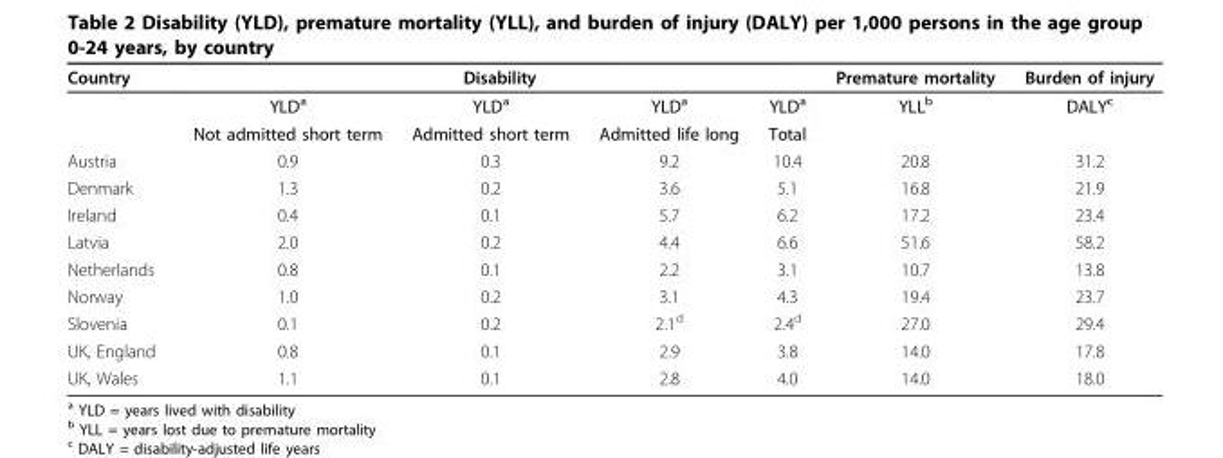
<table><thead><tr><td rowspan="3">Country</td><td colspan="4">Disability</td><td rowspan="3">Premature mortality YLL<sup>b</sup></td><td rowspan="3">Burden of injury DALY<sup>c</sup></td></tr><tr><td rowspan="2">YLD<sup>a</sup> Not admitted short term</td><td rowspan="2">YLD<sup>a</sup> Admitted short term</td><td rowspan="2">YLD<sup>a</sup> Admitted life long</td><td rowspan="2">YLD<sup>a</sup> Total</td></tr><tr></tr></thead><tbody><tr><td>Austria</td><td>0.9</td><td>0.3</td><td>9.2</td><td>10.4</td><td>20.8</td><td>31.2</td></tr><tr><td>Denmark</td><td>1.3</td><td>0.2</td><td>3.6</td><td>5.1</td><td>16.8</td><td>21.9</td></tr><tr><td>Ireland</td><td>0.4</td><td>0.1</td><td>5.7</td><td>6.2</td><td>17.2</td><td>23.4</td></tr><tr><td>Latvia</td><td>2.0</td><td>0.2</td><td>4.4</td><td>6.6</td><td>51.6</td><td>58.2</td></tr><tr><td>Netherlands</td><td>0.8</td><td>0.1</td><td>2.2</td><td>3.1</td><td>10.7</td><td>13.8</td></tr><tr><td>Norway</td><td>1.0</td><td>0.2</td><td>3.1</td><td>4.3</td><td>19.4</td><td>23.7</td></tr><tr><td>Slovenia</td><td>0.1</td><td>0.2</td><td>2.1<sup>d</sup></td><td>2.4<sup>d</sup></td><td>27.0</td><td>29.4</td></tr><tr><td>UK, England</td><td>0.8</td><td>0.1</td><td>2.9</td><td>3.8</td><td>14.0</td><td>17.8</td></tr><tr><td>UK, Wales</td><td>1.1</td><td>0.1</td><td>2.8</td><td>4.0</td><td>14.0</td><td>18.0</td></tr></tbody></table>